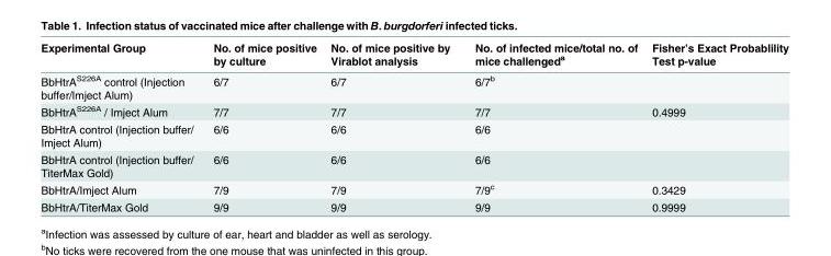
<table><thead><tr><td>Experimental Group</td><td>No. of mice positive by culture</td><td>No. of mice positive by Virablot analysis</td><td>No. of infected mice/total no. of mice challenged<sup>a</sup></td><td>Fisher’s Exact Probablility Test p-value</td></tr></thead><tbody><tr><td>BbHtrA<sup>S226A</sup> control (Injection buffer/Imject Alum)</td><td>6/7</td><td>6/7</td><td>6/7<sup>b</sup></td><td></td></tr><tr><td>BbHtrA<sup>S226A</sup> / Imject Alum</td><td>7/7</td><td>7/7</td><td>7/7</td><td>0.4999</td></tr><tr><td>BbHtrA control (Injection buffer/ Imject Alum)</td><td>6/6</td><td>6/6</td><td>6/6</td><td></td></tr><tr><td>BbHtrA control (Injection buffer/ TiterMax Gold)</td><td>6/6</td><td>6/6</td><td>6/6</td><td></td></tr><tr><td>BbHtrA/Imject Alum</td><td>7/9</td><td>7/9</td><td>7/9<sup>c</sup></td><td>0.3429</td></tr><tr><td>BbHtrA/TiterMax Gold</td><td>9/9</td><td>9/9</td><td>9/9</td><td>0.9999</td></tr></tbody></table>